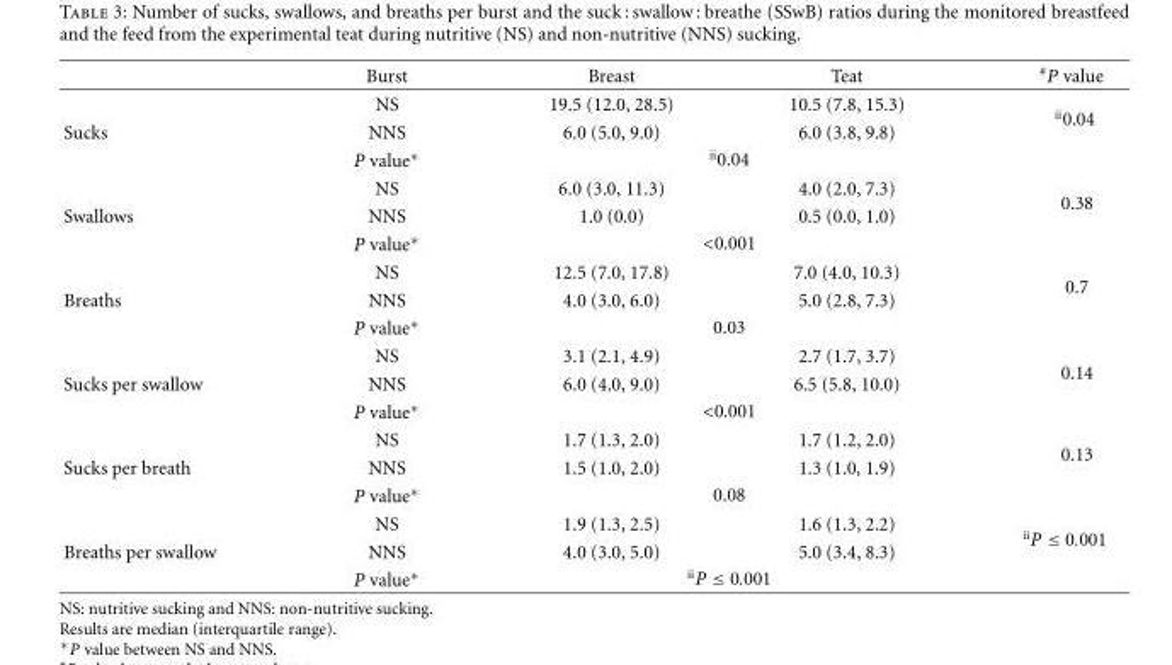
<table><thead><tr><td></td><td>Burst</td><td>Breast</td><td>Teat</td><td><sup>#</sup>P value</td></tr></thead><tbody><tr><td></td><td>NS</td><td>19.5 (12.0, 28.5)</td><td>10.5 (7.8, 15.3)</td><td rowspan="2"><sup>ii</sup>0.04</td></tr><tr><td rowspan="3">Sucks</td><td>NNS</td><td>6.0 (5.0, 9.0)</td><td>6.0 (3.8, 9.8)</td></tr><tr><td>P value∗</td><td colspan="2"><sup>ii</sup>0.04</td><td></td></tr><tr><td>NS</td><td>6.0 (3.0, 11.3)</td><td>4.0 (2.0, 7.3)</td><td rowspan="2">0.38</td></tr><tr><td rowspan="3">Swallows</td><td>NNS</td><td>1.0 (0.0)</td><td>0.5 (0.0, 1.0)</td></tr><tr><td>P value∗</td><td colspan="2">&lt;0.001</td><td></td></tr><tr><td>NS</td><td>12.5 (7.0, 17.8)</td><td>7.0 (4.0, 10.3)</td><td rowspan="2">0.7</td></tr><tr><td rowspan="3">Breaths</td><td>NNS</td><td>4.0 (3.0, 6.0)</td><td>5.0 (2.8, 7.3)</td></tr><tr><td>P value∗</td><td colspan="2">0.03</td><td></td></tr><tr><td>NS</td><td>3.1 (2.1, 4.9)</td><td>2.7 (1.7, 3.7)</td><td rowspan="2">0.14</td></tr><tr><td rowspan="3">Sucks per swallow</td><td>NNS</td><td>6.0 (4.0, 9.0)</td><td>6.5 (5.8, 10.0)</td></tr><tr><td>P value∗</td><td colspan="2">&lt;0.001</td><td></td></tr><tr><td>NS</td><td>1.7 (1.3, 2.0)</td><td>1.7 (1.2, 2.0)</td><td rowspan="2">0.13</td></tr><tr><td rowspan="3">Sucks per breath</td><td>NNS</td><td>1.5 (1.0, 2.0)</td><td>1.3 (1.0, 1.9)</td></tr><tr><td>P value∗</td><td colspan="2">0.08</td><td></td></tr><tr><td>NS</td><td>1.9 (1.3, 2.5)</td><td>1.6 (1.3, 2.2)</td><td rowspan="2"><sup>ii</sup>P ≤ 0.001</td></tr><tr><td rowspan="2">Breaths per swallow</td><td>NNS</td><td>4.0 (3.0, 5.0)</td><td>5.0 (3.4, 8.3)</td></tr><tr><td>P value∗</td><td colspan="2"><sup>ii</sup>P ≤ 0.001</td><td></td></tr></tbody></table>